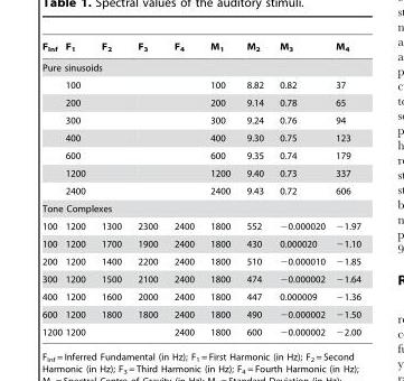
<table><thead><tr><td>F<sub>Inf</sub></td><td>F<sub>1</sub></td><td>F<sub>2</sub></td><td>F<sub>3</sub></td><td>F<sub>4</sub></td><td>M<sub>1</sub></td><td>M<sub>2</sub></td><td>M<sub>3</sub></td><td>M<sub>4</sub></td></tr></thead><tbody><tr><td colspan="9">Pure sinusoids</td></tr><tr><td></td><td>100</td><td></td><td></td><td></td><td>100</td><td>8.82</td><td>0.82</td><td>37</td></tr><tr><td></td><td>200</td><td></td><td></td><td></td><td>200</td><td>9.14</td><td>0.78</td><td>65</td></tr><tr><td></td><td>300</td><td></td><td></td><td></td><td>300</td><td>9.24</td><td>0.76</td><td>94</td></tr><tr><td></td><td>400</td><td></td><td></td><td></td><td>400</td><td>9.30</td><td>0.75</td><td>123</td></tr><tr><td></td><td>600</td><td></td><td></td><td></td><td>600</td><td>9.35</td><td>0.74</td><td>179</td></tr><tr><td></td><td>1200</td><td></td><td></td><td></td><td>1200</td><td>9.40</td><td>0.73</td><td>337</td></tr><tr><td></td><td>2400</td><td></td><td></td><td></td><td>2400</td><td>9.43</td><td>0.72</td><td>606</td></tr><tr><td colspan="9">Tone Complexes</td></tr><tr><td>100</td><td>1200</td><td>1300</td><td>2300</td><td>2400</td><td>1800</td><td>552</td><td>−0.000020</td><td>−1.97</td></tr><tr><td>100</td><td>1200</td><td>1700</td><td>1900</td><td>2400</td><td>1800</td><td>430</td><td>0.000020</td><td>−1.10</td></tr><tr><td>200</td><td>1200</td><td>1400</td><td>2200</td><td>2400</td><td>1800</td><td>510</td><td>−0.000010</td><td>−1.85</td></tr><tr><td>300</td><td>1200</td><td>1500</td><td>2100</td><td>2400</td><td>1800</td><td>474</td><td>−0.000002</td><td>−1.64</td></tr><tr><td>400</td><td>1200</td><td>1600</td><td>2000</td><td>2400</td><td>1800</td><td>447</td><td>0.000009</td><td>−1.36</td></tr><tr><td>600</td><td>1200</td><td>1800</td><td>1800</td><td>2400</td><td>1800</td><td>490</td><td>−0.000002</td><td>−1.50</td></tr><tr><td>1200</td><td>1200</td><td></td><td></td><td>2400</td><td>1800</td><td>600</td><td>−0.000002</td><td>−2.00</td></tr></tbody></table>